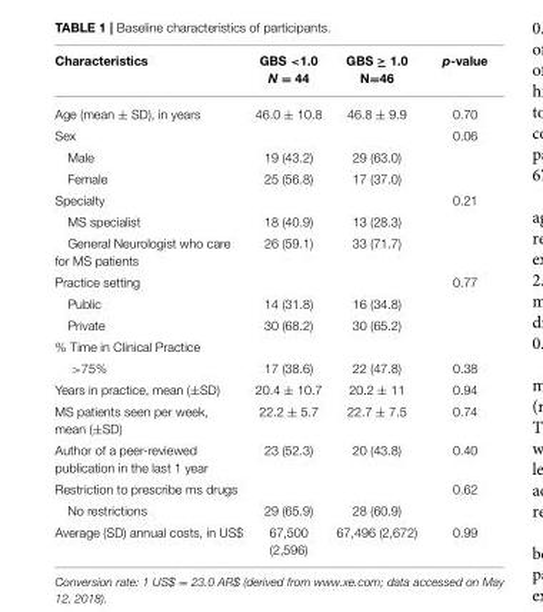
<table><thead><tr><td>Characteristics</td><td>GBS &lt;1.0 N = 44</td><td>GBS ≥ 1.0 N=46</td><td>p-value</td></tr></thead><tbody><tr><td>Age (mean ± SD), in years</td><td>46.0 ± 10.8</td><td>46.8 ± 9.9</td><td>0.70</td></tr><tr><td>Sex</td><td></td><td></td><td>0.06</td></tr><tr><td>Male</td><td>19 (43.2)</td><td>29 (63.0)</td><td></td></tr><tr><td>Female</td><td>25 (56.8)</td><td>17 (37.0)</td><td></td></tr><tr><td>Specialty</td><td></td><td></td><td>0.21</td></tr><tr><td>MS specialist</td><td>18 (40.9)</td><td>13 (28.3)</td><td></td></tr><tr><td>General Neurologist who care for MS patients</td><td>26 (59.1)</td><td>33 (71.7)</td><td></td></tr><tr><td>Practice setting</td><td></td><td></td><td>0.77</td></tr><tr><td>Public</td><td>14 (31.8)</td><td>16 (34.8)</td><td></td></tr><tr><td>Private</td><td>30 (68.2)</td><td>30 (65.2)</td><td></td></tr><tr><td colspan="4">% Time in Clinical Practice</td></tr><tr><td>&gt;75%</td><td>17 (38.6)</td><td>22 (47.8)</td><td>0.38</td></tr><tr><td>Years in practice, mean (±SD)</td><td>20.4 ± 10.7</td><td>20.2 ± 11</td><td>0.94</td></tr><tr><td>MS patients seen per week, mean (±SD)</td><td>22.2 ± 5.7</td><td>22.7 ± 7.5</td><td>0.74</td></tr><tr><td>Author of a peer-reviewed publication in the last 1 year</td><td>23 (52.3)</td><td>20 (43.8)</td><td>0.40</td></tr><tr><td>Restriction to prescribe ms drugs</td><td></td><td></td><td>0.62</td></tr><tr><td>No restrictions</td><td>29 (65.9)</td><td>28 (60.9)</td><td></td></tr><tr><td>Average (SD) annual costs, in US$</td><td>67,500 (2,596)</td><td>67,496 (2,672)</td><td>0.99</td></tr></tbody></table>